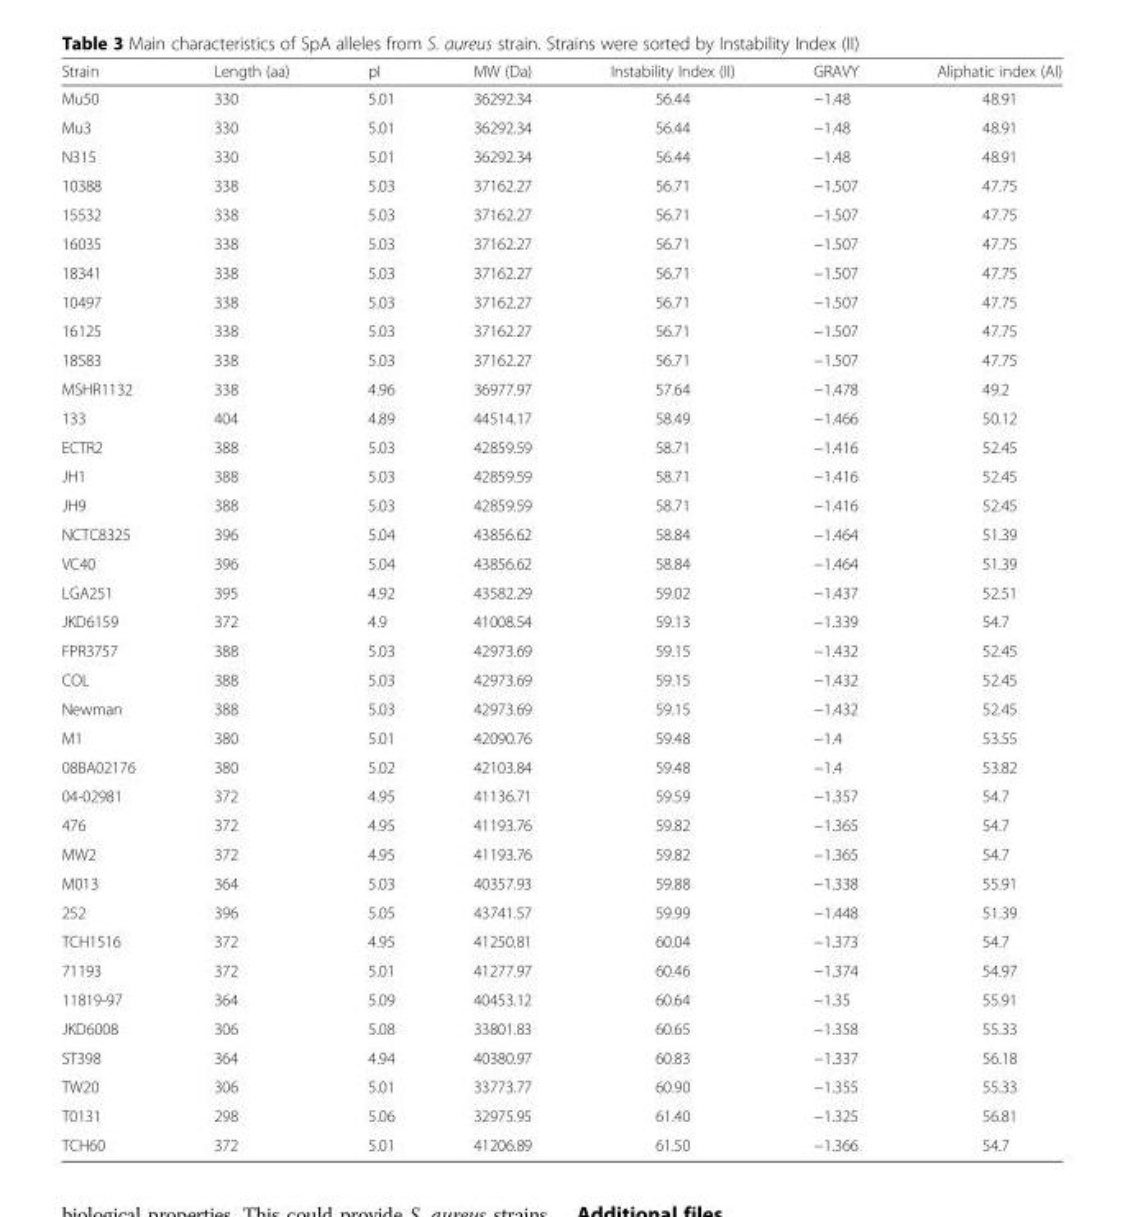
<table><thead><tr><td>Strain</td><td>Length (aa)</td><td>pI</td><td>MW (Da)</td><td>Instability Index (II)</td><td>GRAVY</td><td>Aliphatic index (AI)</td></tr></thead><tbody><tr><td>Mu50</td><td>330</td><td>5.01</td><td>36292.34</td><td>56.44</td><td>−1.48</td><td>48.91</td></tr><tr><td>Mu3</td><td>330</td><td>5.01</td><td>36292.34</td><td>56.44</td><td>−1.48</td><td>48.91</td></tr><tr><td>N315</td><td>330</td><td>5.01</td><td>36292.34</td><td>56.44</td><td>−1.48</td><td>48.91</td></tr><tr><td>10388</td><td>338</td><td>5.03</td><td>37162.27</td><td>56.71</td><td>−1.507</td><td>47.75</td></tr><tr><td>15532</td><td>338</td><td>5.03</td><td>37162.27</td><td>56.71</td><td>−1.507</td><td>47.75</td></tr><tr><td>16035</td><td>338</td><td>5.03</td><td>37162.27</td><td>56.71</td><td>−1.507</td><td>47.75</td></tr><tr><td>18341</td><td>338</td><td>5.03</td><td>37162.27</td><td>56.71</td><td>−1.507</td><td>47.75</td></tr><tr><td>10497</td><td>338</td><td>5.03</td><td>37162.27</td><td>56.71</td><td>−1.507</td><td>47.75</td></tr><tr><td>16125</td><td>338</td><td>5.03</td><td>37162.27</td><td>56.71</td><td>−1.507</td><td>47.75</td></tr><tr><td>18583</td><td>338</td><td>5.03</td><td>37162.27</td><td>56.71</td><td>−1.507</td><td>47.75</td></tr><tr><td>MSHR1132</td><td>338</td><td>4.96</td><td>36977.97</td><td>57.64</td><td>−1.478</td><td>49.2</td></tr><tr><td>133</td><td>404</td><td>4.89</td><td>44514.17</td><td>58.49</td><td>−1.466</td><td>50.12</td></tr><tr><td>ECTR2</td><td>388</td><td>5.03</td><td>42859.59</td><td>58.71</td><td>−1.416</td><td>52.45</td></tr><tr><td>JH1</td><td>388</td><td>5.03</td><td>42859.59</td><td>58.71</td><td>−1.416</td><td>52.45</td></tr><tr><td>JH9</td><td>388</td><td>5.03</td><td>42859.59</td><td>58.71</td><td>−1.416</td><td>52.45</td></tr><tr><td>NCTC8325</td><td>396</td><td>5.04</td><td>43856.62</td><td>58.84</td><td>−1.464</td><td>51.39</td></tr><tr><td>VC40</td><td>396</td><td>5.04</td><td>43856.62</td><td>58.84</td><td>−1.464</td><td>51.39</td></tr><tr><td>LGA251</td><td>395</td><td>4.92</td><td>43582.29</td><td>59.02</td><td>−1.437</td><td>52.51</td></tr><tr><td>JKD6159</td><td>372</td><td>4.9</td><td>41008.54</td><td>59.13</td><td>−1.339</td><td>54.7</td></tr><tr><td>FPR3757</td><td>388</td><td>5.03</td><td>42973.69</td><td>59.15</td><td>−1.432</td><td>52.45</td></tr><tr><td>COL</td><td>388</td><td>5.03</td><td>42973.69</td><td>59.15</td><td>−1.432</td><td>52.45</td></tr><tr><td>Newman</td><td>388</td><td>5.03</td><td>42973.69</td><td>59.15</td><td>−1.432</td><td>52.45</td></tr><tr><td>M1</td><td>380</td><td>5.01</td><td>42090.76</td><td>59.48</td><td>−1.4</td><td>53.55</td></tr><tr><td>08BA02176</td><td>380</td><td>5.02</td><td>42103.84</td><td>59.48</td><td>−1.4</td><td>53.82</td></tr><tr><td>04-02981</td><td>372</td><td>4.95</td><td>41136.71</td><td>59.59</td><td>−1.357</td><td>54.7</td></tr><tr><td>476</td><td>372</td><td>4.95</td><td>41193.76</td><td>59.82</td><td>−1.365</td><td>54.7</td></tr><tr><td>MW2</td><td>372</td><td>4.95</td><td>41193.76</td><td>59.82</td><td>−1.365</td><td>54.7</td></tr><tr><td>M013</td><td>364</td><td>5.03</td><td>40357.93</td><td>59.88</td><td>−1.338</td><td>55.91</td></tr><tr><td>252</td><td>396</td><td>5.05</td><td>43741.57</td><td>59.99</td><td>−1.448</td><td>51.39</td></tr><tr><td>TCH1516</td><td>372</td><td>4.95</td><td>41250.81</td><td>60.04</td><td>−1.373</td><td>54.7</td></tr><tr><td>71193</td><td>372</td><td>5.01</td><td>41277.97</td><td>60.46</td><td>−1.374</td><td>54.97</td></tr><tr><td>11819-97</td><td>364</td><td>5.09</td><td>40453.12</td><td>60.64</td><td>−1.35</td><td>55.91</td></tr><tr><td>JKD6008</td><td>306</td><td>5.08</td><td>33801.83</td><td>60.65</td><td>−1.358</td><td>55.33</td></tr><tr><td>ST398</td><td>364</td><td>4.94</td><td>40380.97</td><td>60.83</td><td>−1.337</td><td>56.18</td></tr><tr><td>TW20</td><td>306</td><td>5.01</td><td>33773.77</td><td>60.90</td><td>−1.355</td><td>55.33</td></tr><tr><td>T0131</td><td>298</td><td>5.06</td><td>32975.95</td><td>61.40</td><td>−1.325</td><td>56.81</td></tr><tr><td>TCH60</td><td>372</td><td>5.01</td><td>41206.89</td><td>61.50</td><td>−1.366</td><td>54.7</td></tr></tbody></table>